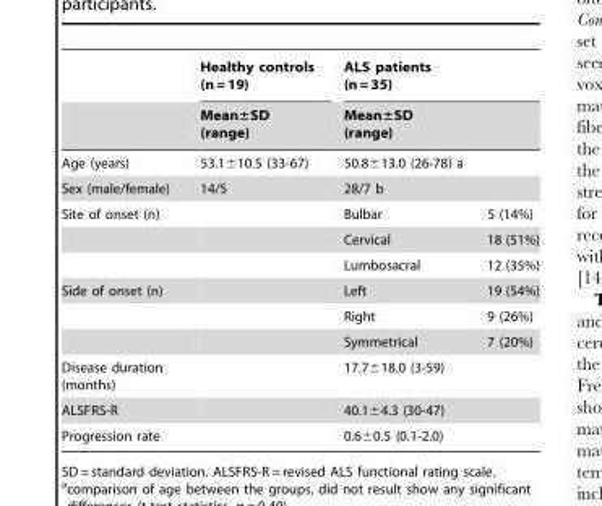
<table><thead><tr><td rowspan="5">Age (years) Sex (male/female) Site of onset (n)</td><td rowspan="5">Healthy controls (n = 19) Mean±SD (range) 53.1±10.5 (33-67) 14/5</td><td rowspan="4" colspan="2">ALS patients (n = 35) Mean±SD (range) 50.8±13.0 (26-78) a 28/7 b</td></tr><tr></tr><tr></tr><tr></tr><tr><td>Bulbar</td><td>5 (14%)</td></tr></thead><tbody><tr><td></td><td></td><td>Cervical</td><td>18 (51%)</td></tr><tr><td></td><td></td><td>Lumbosacral</td><td>12 (35%)</td></tr><tr><td rowspan="3">Side of onset (n)</td><td></td><td>Left</td><td>19 (54%)</td></tr><tr><td></td><td>Right</td><td>9 (26%)</td></tr><tr><td></td><td>Symmetrical</td><td>7 (20%)</td></tr><tr><td>Disease duration (months)</td><td></td><td colspan="2">17.7±18.0 (3-59)</td></tr><tr><td>ALSFRS-R</td><td></td><td colspan="2">40.1±4.3 (30-47)</td></tr><tr><td>Progression rate</td><td></td><td colspan="2">0.6±0.5 (0.1-2.0)</td></tr></tbody></table>